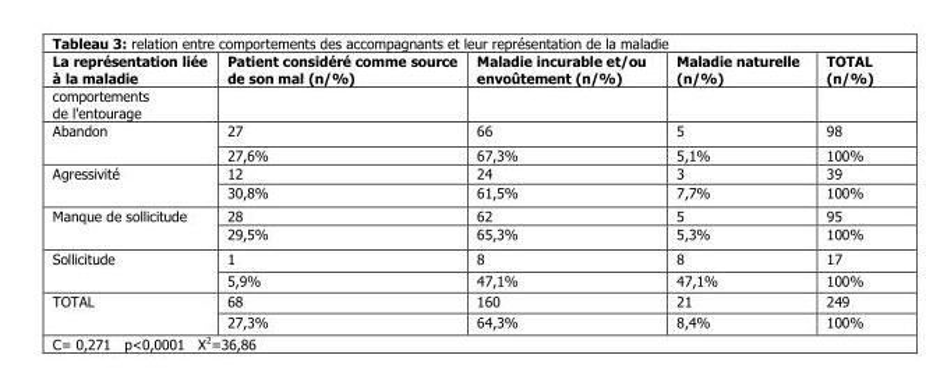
<table><thead><tr><td>La représentation liée à la maladie</td><td>Patient considéré comme source de son mal (n/%)</td><td>Maladie incurable et/ou envoûtement (n/%)</td><td>Maladie naturelle (n/%)</td><td>TOTAL (n/%)</td></tr></thead><tbody><tr><td colspan="5">comportements de l&#x27;entourage</td></tr><tr><td rowspan="2">Abandon</td><td>27</td><td>66</td><td>5</td><td>98</td></tr><tr><td>27,6%</td><td>67,3%</td><td>5,1%</td><td>100%</td></tr><tr><td rowspan="2">Agressivité</td><td>12</td><td>24</td><td>3</td><td>39</td></tr><tr><td>30,8%</td><td>61,5%</td><td>7,7%</td><td>100%</td></tr><tr><td rowspan="2">Manque de sollicitude</td><td>28</td><td>62</td><td>5</td><td>95</td></tr><tr><td>29,5%</td><td>65,3%</td><td>5,3%</td><td>100%</td></tr><tr><td rowspan="2">Sollicitude</td><td>1</td><td>8</td><td>8</td><td>17</td></tr><tr><td>5,9%</td><td>47,1%</td><td>47,1%</td><td>100%</td></tr><tr><td rowspan="2">TOTAL</td><td>68</td><td>160</td><td>21</td><td>249</td></tr><tr><td>27,3%</td><td>64,3%</td><td>8,4%</td><td>100%</td></tr></tbody></table>